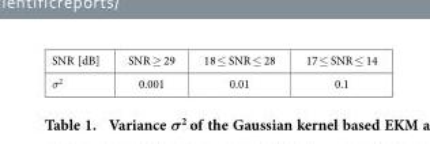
<table><tbody><tr><td>SNR [dB]</td><td>SNR ≥ 29</td><td>18 ≤ SNR ≤ 28</td><td>17 ≤ SNR ≤ 14</td></tr><tr><td>σ<sup>2</sup></td><td>0.001</td><td>0.01</td><td>0.1</td></tr></tbody></table>